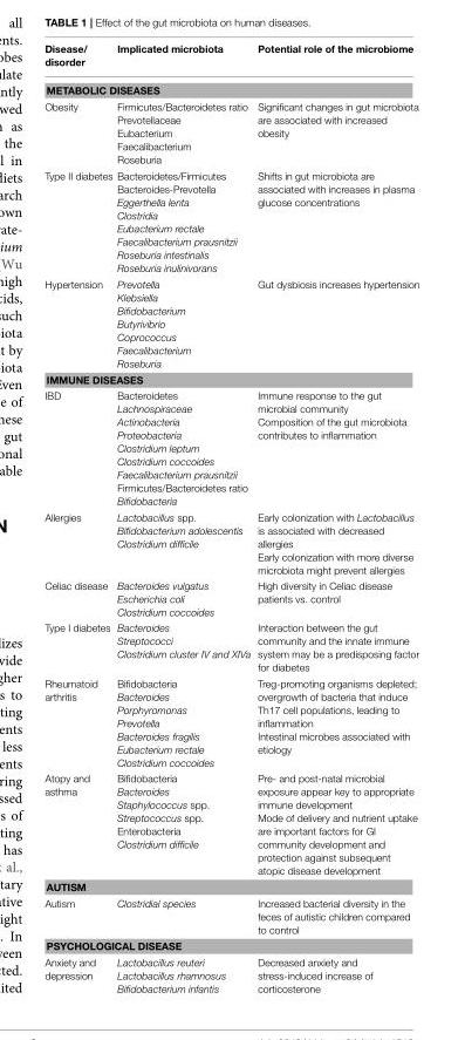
<table><thead><tr><td>Disease/ disorder</td><td>Implicated microbiota</td><td>Potential role of the microbiome</td></tr></thead><tbody><tr><td colspan="3">METABOLIC DISEASES</td></tr><tr><td>Obesity</td><td>Firmicutes/Bacteroidetes ratio Prevotellaceae Eubacterium Faecalibacterium Roseburia</td><td>Significant changes in gut microbiota are associated with increased obesity</td></tr><tr><td>Type II diabetes</td><td>Bacteroidetes/Firmicutes Bacteroides-Prevotella Eggerthella lenta Clostridia Eubacterium rectale Faecalibacterium prausnitzii Roseburia intestinalis Roseburia inulinivorans</td><td>Shifts in gut microbiota are associated with increases in plasma glucose concentrations</td></tr><tr><td>Hypertension</td><td>Prevotella Klebsiella Bifidobacterium Butyrivibrio Coprococcus Faecalibacterium Roseburia</td><td>Gut dysbiosis increases hypertension</td></tr><tr><td colspan="3">IMMUNE DISEASES</td></tr><tr><td>IBD</td><td>Bacteroidetes Lachnospiraceae Actinobacteria Proteobacteria Clostridium leptum Clostridium coccoides Faecalibacterium prausnitzii Firmicutes/Bacteroidetes ratio Bifidobacteria</td><td>Immune response to the gut microbial community Composition of the gut microbiota contributes to inflammation</td></tr><tr><td>Allergies</td><td>Lactobacillus spp. Bifidobacterium adolescentis Clostridium difficile</td><td>Early colonization with Lactobacillus is associated with decreased allergies Early colonization with more diverse microbiota might prevent allergies</td></tr><tr><td>Celiac disease</td><td>Bacteroides vulgatus Escherichia coli Clostridium coccoides</td><td>High diversity in Celiac disease patients vs. control</td></tr><tr><td>Type I diabetes</td><td>Bacteroides Streptococci Clostridium cluster IV and XIVa</td><td>Interaction between the gut community and the innate immune system may be a predisposing factor for diabetes</td></tr><tr><td>Rheumatoid arthritis</td><td>Bifidobacteria Bacteroides Porphyromonas Prevotella Bacteroides fragilis Eubacterium rectale Clostridium coccoides</td><td>Treg-promoting organisms depleted; overgrowth of bacteria that induce Th17 cell populations, leading to inflammation Intestinal microbes associated with etiology</td></tr><tr><td>Atopy and asthma</td><td>Bifidobacteria Bacteroides Staphylococcus spp. Streptococcus spp. Enterobacteria Clostridium difficile</td><td>Pre- and post-natal microbial exposure appear key to appropriate immune development Mode of delivery and nutrient uptake are important factors for GI community development and protection against subsequent atopic disease development</td></tr><tr><td colspan="3">AUTISM</td></tr><tr><td>Autism</td><td>Clostridial species</td><td>Increased bacterial diversity in the feces of autistic children compared to control</td></tr><tr><td colspan="3">PSYCHOLOGICAL DISEASE</td></tr><tr><td>Anxiety and depression</td><td>Lactobacillus reuteri Lactobacillus rhamnosus Bifidobacterium infantis</td><td>Decreased anxiety and stress-induced increase of corticosterone</td></tr></tbody></table>